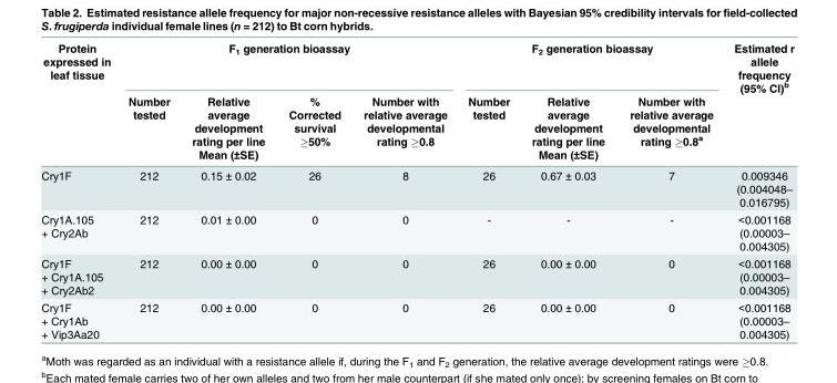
<table><thead><tr><td rowspan="2">Protein expressed in leaf tissue</td><td colspan="4">F<sub>1</sub> generation bioassay</td><td colspan="3">F<sub>2</sub> generation bioassay</td><td rowspan="2">Estimated r allele frequency (95% CI)<sup>b</sup></td></tr><tr><td>Number tested</td><td>Relative average development rating per line Mean (±SE)</td><td>% Corrected survival ≥50%</td><td>Number with relative average developmental rating ≥0.8</td><td>Number tested</td><td>Relative average development rating per line Mean (±SE)</td><td>Number with relative average developmental rating ≥0.8<sup>a</sup></td></tr></thead><tbody><tr><td>Cry1F</td><td>212</td><td>0.15 ± 0.02</td><td>26</td><td>8</td><td>26</td><td>0.67 ± 0.03</td><td>7</td><td>0.009346 (0.004048– 0.016795)</td></tr><tr><td>Cry1A.105 + Cry2Ab</td><td>212</td><td>0.01 ± 0.00</td><td>0</td><td>0</td><td>-</td><td>-</td><td>-</td><td>&lt;0.001168 (0.00003– 0.004305)</td></tr><tr><td>Cry1F + Cry1A.105 + Cry2Ab2</td><td>212</td><td>0.00 ± 0.00</td><td>0</td><td>0</td><td>26</td><td>0.00 ± 0.00</td><td>0</td><td>&lt;0.001168 (0.00003– 0.004305)</td></tr><tr><td>Cry1F + Cry1Ab + Vip3Aa20</td><td>212</td><td>0.00 ± 0.00</td><td>0</td><td>0</td><td>26</td><td>0.00 ± 0.00</td><td>0</td><td>&lt;0.001168 (0.00003– 0.004305)</td></tr></tbody></table>